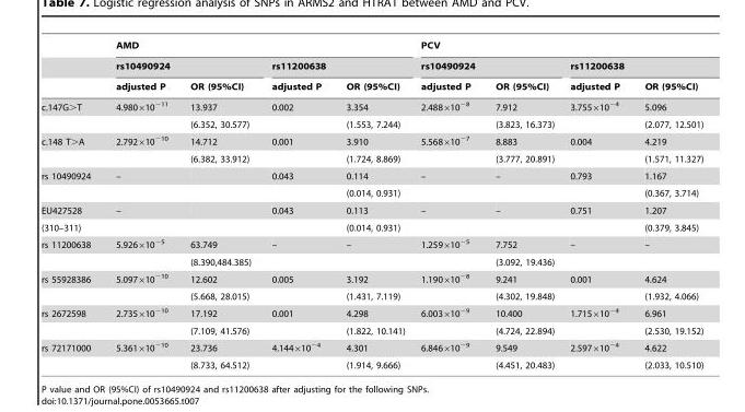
<table><thead><tr><td rowspan="3"></td><td colspan="4">AMD</td><td colspan="4">PCV</td></tr><tr><td colspan="2">rs10490924</td><td colspan="2">rs11200638</td><td colspan="2">rs10490924</td><td colspan="2">rs11200638</td></tr><tr><td>adjusted P</td><td>OR (95%CI)</td><td>adjusted P</td><td>OR (95%CI)</td><td>adjusted P</td><td>OR (95%CI)</td><td>adjusted P</td><td>OR (95%CI)</td></tr></thead><tbody><tr><td rowspan="2">c.147G&gt;T</td><td>4.980×10<sup>−11</sup></td><td>13.937</td><td>0.002</td><td>3.354</td><td>2.488×10<sup>−8</sup></td><td>7.912</td><td>3.755×10<sup>−4</sup></td><td>5.096</td></tr><tr><td></td><td>(6.352, 30.577)</td><td></td><td>(1.553, 7.244)</td><td></td><td>(3.823, 16.373)</td><td></td><td>(2.077, 12.501)</td></tr><tr><td rowspan="2">c.148 T&gt;A</td><td>2.792×10<sup>−10</sup></td><td>14.712</td><td>0.001</td><td>3.910</td><td>5.568×10<sup>−7</sup></td><td>8.883</td><td>0.004</td><td>4.219</td></tr><tr><td></td><td>(6.382, 33.912)</td><td></td><td>(1.724, 8.869)</td><td></td><td>(3.777, 20.891)</td><td></td><td>(1.571, 11.327)</td></tr><tr><td rowspan="2">rs 10490924</td><td>–</td><td></td><td>0.043</td><td>0.114</td><td>–</td><td>–</td><td>0.793</td><td>1.167</td></tr><tr><td></td><td></td><td></td><td>(0.014, 0.931)</td><td></td><td></td><td></td><td>(0.367, 3.714)</td></tr><tr><td>EU427528</td><td>–</td><td></td><td>0.043</td><td>0.113</td><td>–</td><td>–</td><td>0.751</td><td>1.207</td></tr><tr><td>(310–311)</td><td></td><td></td><td></td><td>(0.014, 0.931)</td><td></td><td></td><td></td><td>(0.379, 3.845)</td></tr><tr><td rowspan="2">rs 11200638</td><td>5.926×10<sup>−5</sup></td><td>63.749</td><td>–</td><td>–</td><td>1.259×10<sup>−5</sup></td><td>7.752</td><td>–</td><td>–</td></tr><tr><td></td><td>(8.390,484.385)</td><td></td><td></td><td></td><td>(3.092, 19.436)</td><td></td><td></td></tr><tr><td rowspan="2">rs 55928386</td><td>5.097×10<sup>−10</sup></td><td>12.602</td><td>0.005</td><td>3.192</td><td>1.190×10<sup>−8</sup></td><td>9.241</td><td>0.001</td><td>4.624</td></tr><tr><td></td><td>(5.668, 28.015)</td><td></td><td>(1.431, 7.119)</td><td></td><td>(4.302, 19.848)</td><td></td><td>(1.932, 4.066)</td></tr><tr><td rowspan="2">rs 2672598</td><td>2.735×10<sup>−10</sup></td><td>17.192</td><td>0.001</td><td>4.298</td><td>6.003×10<sup>−9</sup></td><td>10.400</td><td>1.715×10<sup>−4</sup></td><td>6.961</td></tr><tr><td></td><td>(7.109, 41.576)</td><td></td><td>(1.822, 10.141)</td><td></td><td>(4.724, 22.894)</td><td></td><td>(2.530, 19.152)</td></tr><tr><td rowspan="2">rs 72171000</td><td>5.361×10<sup>−10</sup></td><td>23.736</td><td>4.144×10<sup>−4</sup></td><td>4.301</td><td>6.846×10<sup>−9</sup></td><td>9.549</td><td>2.597×10<sup>−4</sup></td><td>4.622</td></tr><tr><td></td><td>(8.733, 64.512)</td><td></td><td>(1.914, 9.666)</td><td></td><td>(4.451, 20.483)</td><td></td><td>(2.033, 10.510)</td></tr></tbody></table>